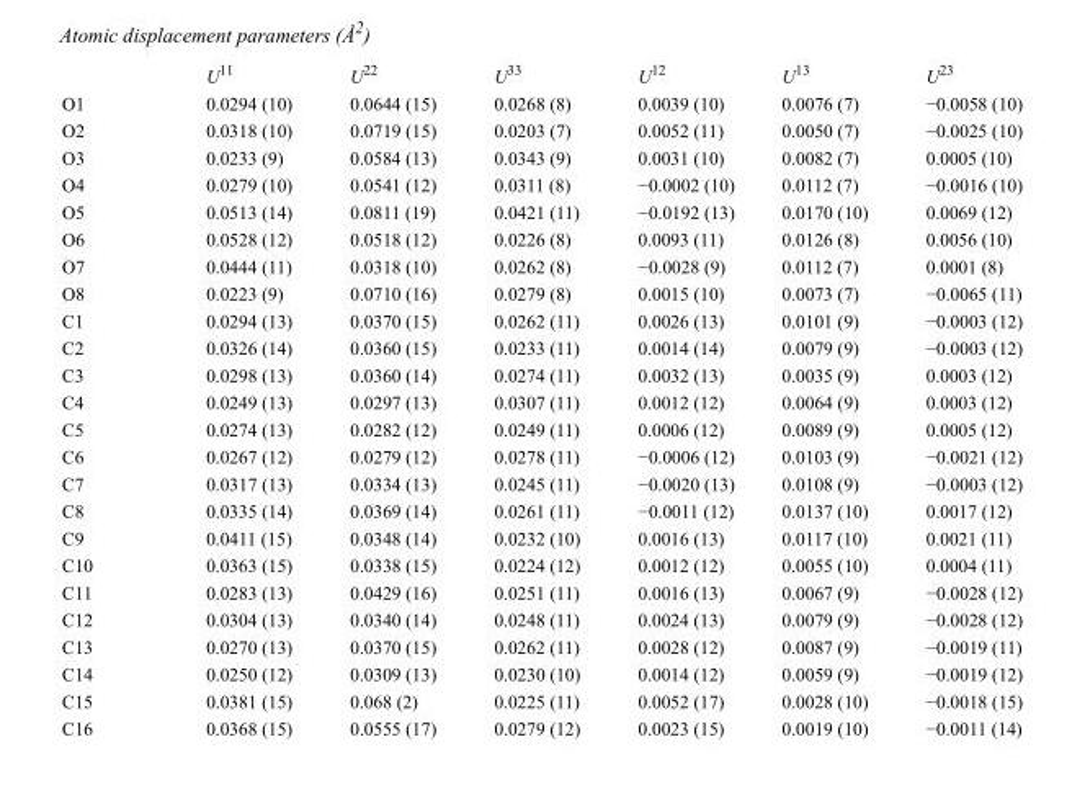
<table><thead><tr><td></td><td>U<sup>11</sup></td><td>U<sup>22</sup></td><td>U<sup>33</sup></td><td>U<sup>12</sup></td><td>U<sup>13</sup></td><td>U<sup>23</sup></td></tr></thead><tbody><tr><td>O1</td><td>0.0294 (10)</td><td>0.0644 (15)</td><td>0.0268 (8)</td><td>0.0039 (10)</td><td>0.0076 (7)</td><td>−0.0058 (10)</td></tr><tr><td>O2</td><td>0.0318 (10)</td><td>0.0719 (15)</td><td>0.0203 (7)</td><td>0.0052 (11)</td><td>0.0050 (7)</td><td>−0.0025 (10)</td></tr><tr><td>O3</td><td>0.0233 (9)</td><td>0.0584 (13)</td><td>0.0343 (9)</td><td>0.0031 (10)</td><td>0.0082 (7)</td><td>0.0005 (10)</td></tr><tr><td>O4</td><td>0.0279 (10)</td><td>0.0541 (12)</td><td>0.0311 (8)</td><td>−0.0002 (10)</td><td>0.0112 (7)</td><td>−0.0016 (10)</td></tr><tr><td>O5</td><td>0.0513 (14)</td><td>0.0811 (19)</td><td>0.0421 (11)</td><td>−0.0192 (13)</td><td>0.0170 (10)</td><td>0.0069 (12)</td></tr><tr><td>O6</td><td>0.0528 (12)</td><td>0.0518 (12)</td><td>0.0226 (8)</td><td>0.0093 (11)</td><td>0.0126 (8)</td><td>0.0056 (10)</td></tr><tr><td>O7</td><td>0.0444 (11)</td><td>0.0318 (10)</td><td>0.0262 (8)</td><td>−0.0028 (9)</td><td>0.0112 (7)</td><td>0.0001 (8)</td></tr><tr><td>O8</td><td>0.0223 (9)</td><td>0.0710 (16)</td><td>0.0279 (8)</td><td>0.0015 (10)</td><td>0.0073 (7)</td><td>−0.0065 (11)</td></tr><tr><td>C1</td><td>0.0294 (13)</td><td>0.0370 (15)</td><td>0.0262 (11)</td><td>0.0026 (13)</td><td>0.0101 (9)</td><td>−0.0003 (12)</td></tr><tr><td>C2</td><td>0.0326 (14)</td><td>0.0360 (15)</td><td>0.0233 (11)</td><td>0.0014 (14)</td><td>0.0079 (9)</td><td>−0.0003 (12)</td></tr><tr><td>C3</td><td>0.0298 (13)</td><td>0.0360 (14)</td><td>0.0274 (11)</td><td>0.0032 (13)</td><td>0.0035 (9)</td><td>0.0003 (12)</td></tr><tr><td>C4</td><td>0.0249 (13)</td><td>0.0297 (13)</td><td>0.0307 (11)</td><td>0.0012 (12)</td><td>0.0064 (9)</td><td>0.0003 (12)</td></tr><tr><td>C5</td><td>0.0274 (13)</td><td>0.0282 (12)</td><td>0.0249 (11)</td><td>0.0006 (12)</td><td>0.0089 (9)</td><td>0.0005 (12)</td></tr><tr><td>C6</td><td>0.0267 (12)</td><td>0.0279 (12)</td><td>0.0278 (11)</td><td>−0.0006 (12)</td><td>0.0103 (9)</td><td>−0.0021 (12)</td></tr><tr><td>C7</td><td>0.0317 (13)</td><td>0.0334 (13)</td><td>0.0245 (11)</td><td>−0.0020 (13)</td><td>0.0108 (9)</td><td>−0.0003 (12)</td></tr><tr><td>C8</td><td>0.0335 (14)</td><td>0.0369 (14)</td><td>0.0261 (11)</td><td>−0.0011 (12)</td><td>0.0137 (10)</td><td>0.0017 (12)</td></tr><tr><td>C9</td><td>0.0411 (15)</td><td>0.0348 (14)</td><td>0.0232 (10)</td><td>0.0016 (13)</td><td>0.0117 (10)</td><td>0.0021 (11)</td></tr><tr><td>C10</td><td>0.0363 (15)</td><td>0.0338 (15)</td><td>0.0224 (12)</td><td>0.0012 (12)</td><td>0.0055 (10)</td><td>0.0004 (11)</td></tr><tr><td>C11</td><td>0.0283 (13)</td><td>0.0429 (16)</td><td>0.0251 (11)</td><td>0.0016 (13)</td><td>0.0067 (9)</td><td>−0.0028 (12)</td></tr><tr><td>C12</td><td>0.0304 (13)</td><td>0.0340 (14)</td><td>0.0248 (11)</td><td>0.0024 (13)</td><td>0.0079 (9)</td><td>−0.0028 (12)</td></tr><tr><td>C13</td><td>0.0270 (13)</td><td>0.0370 (15)</td><td>0.0262 (11)</td><td>0.0028 (12)</td><td>0.0087 (9)</td><td>−0.0019 (11)</td></tr><tr><td>C14</td><td>0.0250 (12)</td><td>0.0309 (13)</td><td>0.0230 (10)</td><td>0.0014 (12)</td><td>0.0059 (9)</td><td>−0.0019 (12)</td></tr><tr><td>C15</td><td>0.0381 (15)</td><td>0.068 (2)</td><td>0.0225 (11)</td><td>0.0052 (17)</td><td>0.0028 (10)</td><td>−0.0018 (15)</td></tr><tr><td>C16</td><td>0.0368 (15)</td><td>0.0555 (17)</td><td>0.0279 (12)</td><td>0.0023 (15)</td><td>0.0019 (10)</td><td>−0.0011 (14)</td></tr></tbody></table>